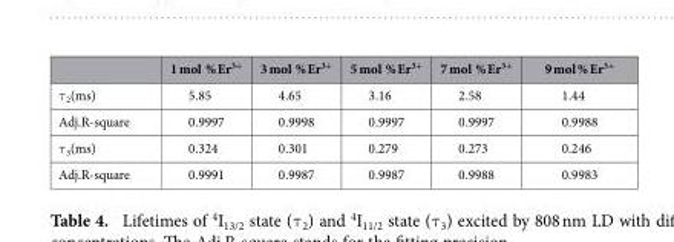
<table><thead><tr><td></td><td>1 mol % Er<sup>3+</sup></td><td>3 mol % Er<sup>3+</sup></td><td>5 mol % Er<sup>3+</sup></td><td>7 mol % Er<sup>3+</sup></td><td>9 mol % Er<sup>3+</sup></td></tr></thead><tbody><tr><td>τ <sub>2</sub>(ms)</td><td>5.85</td><td>4.65</td><td>3.16</td><td>2.58</td><td>1.44</td></tr><tr><td>Adj.R-square</td><td>0.9997</td><td>0.9998</td><td>0.9997</td><td>0.9997</td><td>0.9988</td></tr><tr><td>τ <sub>3</sub>(ms)</td><td>0.324</td><td>0.301</td><td>0.279</td><td>0.273</td><td>0.246</td></tr><tr><td>Adj.R-square</td><td>0.9991</td><td>0.9987</td><td>0.9987</td><td>0.9988</td><td>0.9983</td></tr></tbody></table>